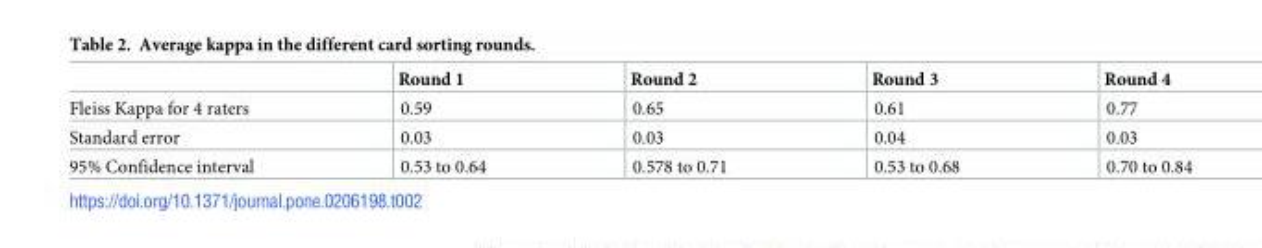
<table><thead><tr><td></td><td>Round 1</td><td>Round 2</td><td>Round 3</td><td>Round 4</td></tr></thead><tbody><tr><td>Fleiss Kappa for 4 raters</td><td>0.59</td><td>0.65</td><td>0.61</td><td>0.77</td></tr><tr><td>Standard error</td><td>0.03</td><td>0.03</td><td>0.04</td><td>0.03</td></tr><tr><td>95% Confidence interval</td><td>0.53 to 0.64</td><td>0.578 to 0.71</td><td>0.53 to 0.68</td><td>0.70 to 0.84</td></tr></tbody></table>